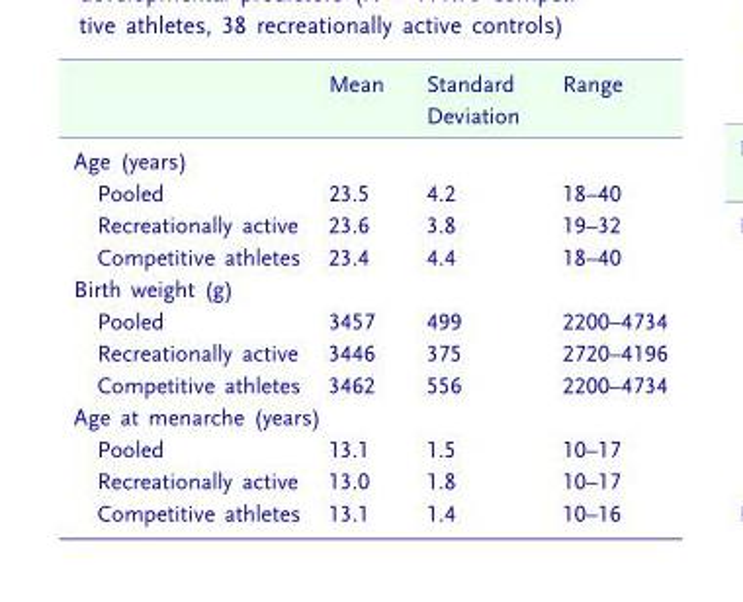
<table><thead><tr><td></td><td>Mean</td><td>Standard Deviation</td><td>Range</td></tr></thead><tbody><tr><td colspan="4">Age (years)</td></tr><tr><td>Pooled</td><td>23.5</td><td>4.2</td><td>18–40</td></tr><tr><td>Recreationally active</td><td>23.6</td><td>3.8</td><td>19–32</td></tr><tr><td>Competitive athletes</td><td>23.4</td><td>4.4</td><td>18–40</td></tr><tr><td colspan="4">Birth weight (g)</td></tr><tr><td>Pooled</td><td>3457</td><td>499</td><td>2200–4734</td></tr><tr><td>Recreationally active</td><td>3446</td><td>375</td><td>2720–4196</td></tr><tr><td>Competitive athletes</td><td>3462</td><td>556</td><td>2200–4734</td></tr><tr><td colspan="4">Age at menarche (years)</td></tr><tr><td>Pooled</td><td>13.1</td><td>1.5</td><td>10–17</td></tr><tr><td>Recreationally active</td><td>13.0</td><td>1.8</td><td>10–17</td></tr><tr><td>Competitive athletes</td><td>13.1</td><td>1.4</td><td>10–16</td></tr></tbody></table>